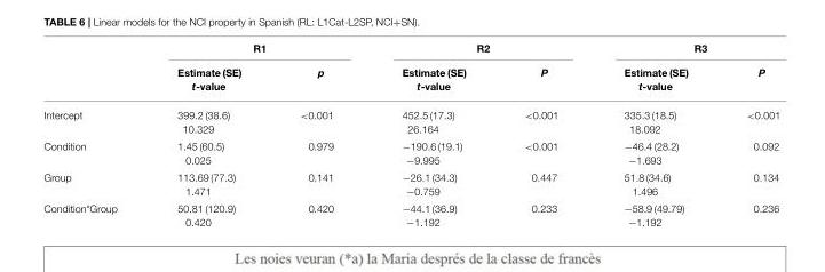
<table><thead><tr><td rowspan="2"></td><td colspan="2">R1</td><td colspan="2">R2</td><td colspan="2">R3</td></tr><tr><td>Estimate (SE) t-value</td><td>p</td><td>Estimate (SE) t-value</td><td>P</td><td>Estimate (SE) t-value</td><td>P</td></tr></thead><tbody><tr><td>Intercept</td><td>399.2 (38.6) 10.329</td><td>&lt;0.001</td><td>452.5 (17.3) 26.164</td><td>&lt;0.001</td><td>335.3 (18.5) 18.092</td><td>&lt;0.001</td></tr><tr><td>Condition</td><td>1.45 (60.5) 0.025</td><td>0.979</td><td>−190.6 (19.1) −9.995</td><td>&lt;0.001</td><td>−46.4 (28.2) −1.693</td><td>0.092</td></tr><tr><td>Group</td><td>113.69 (77.3) 1.471</td><td>0.141</td><td>−26.1 (34.3) −0.759</td><td>0.447</td><td>51.8 (34.6) 1.496</td><td>0.134</td></tr><tr><td>Condition*Group</td><td>50.81 (120.9) 0.420</td><td>0.420</td><td>−44.1 (36.9) −1.192</td><td>0.233</td><td>−58.9 (49.79) −1.192</td><td>0.236</td></tr></tbody></table>